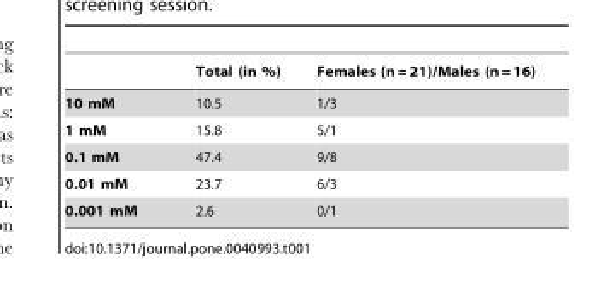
<table><thead><tr><td></td><td>Total (in %)</td><td>Females (n = 21)/Males (n = 16)</td></tr></thead><tbody><tr><td>10 mM</td><td>10.5</td><td>1/3</td></tr><tr><td>1 mM</td><td>15.8</td><td>5/1</td></tr><tr><td>0.1 mM</td><td>47.4</td><td>9/8</td></tr><tr><td>0.01 mM</td><td>23.7</td><td>6/3</td></tr><tr><td>0.001 mM</td><td>2.6</td><td>0/1</td></tr></tbody></table>